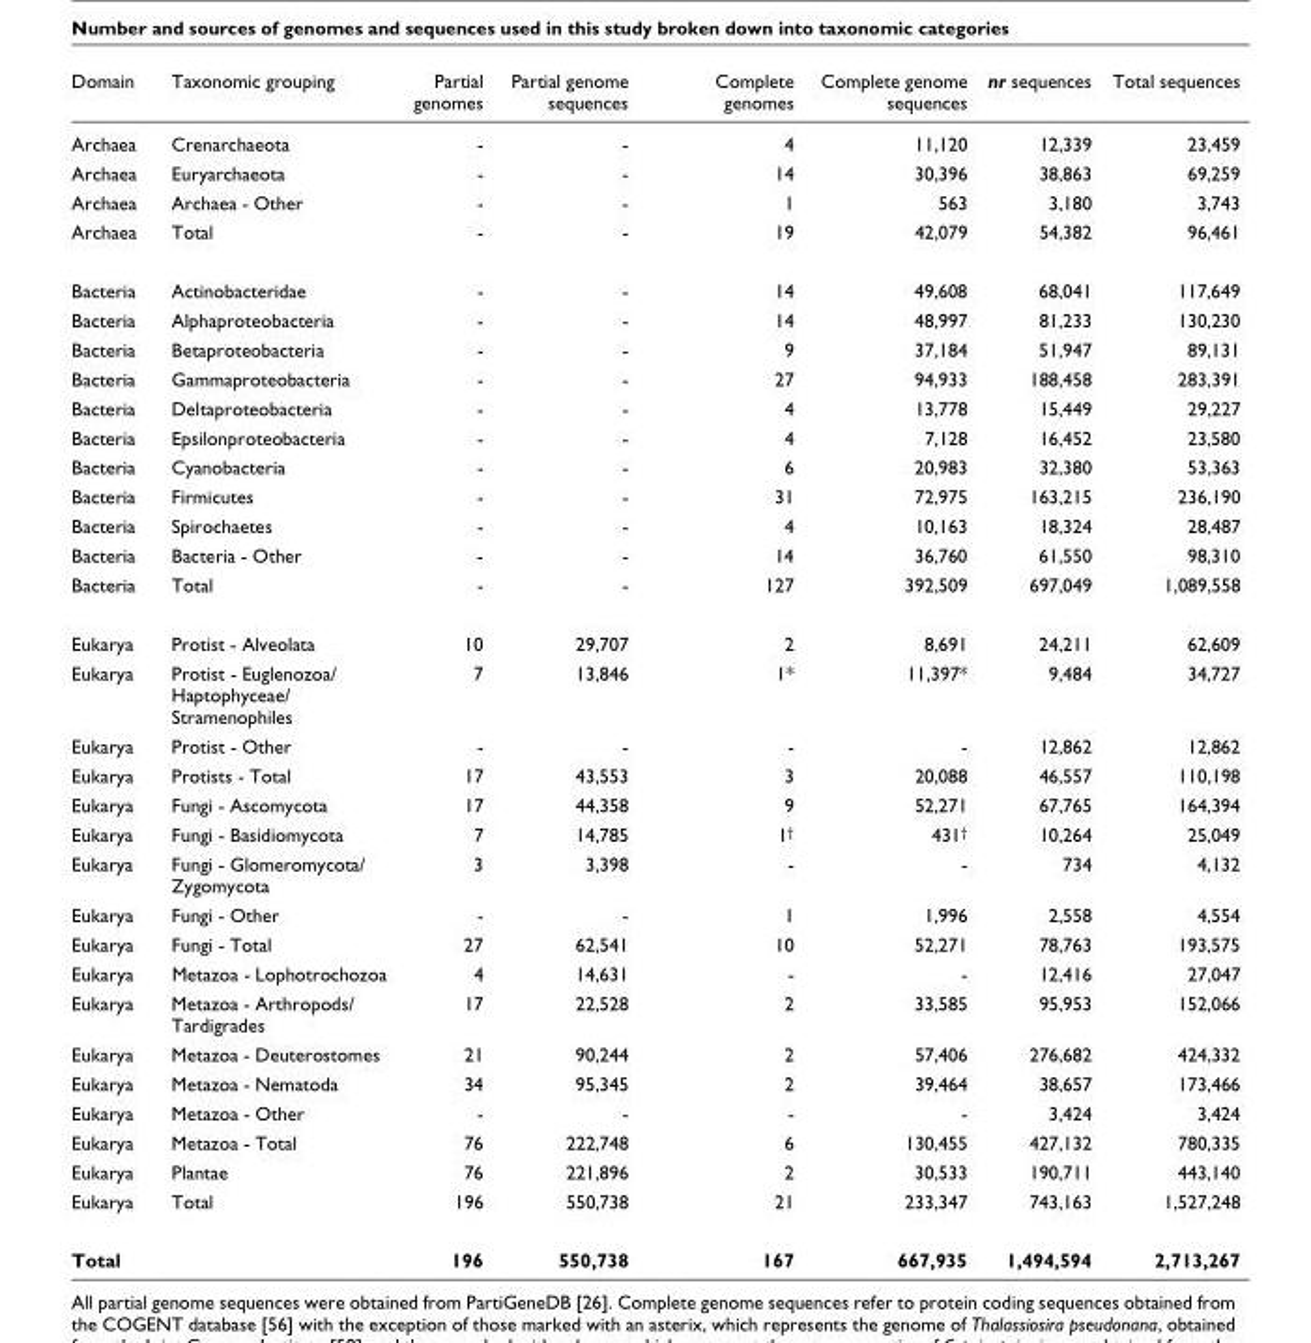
<table><thead><tr><td>Domain</td><td>Taxonomic grouping</td><td>Partial genomes</td><td>Partial genome sequences</td><td>Complete genomes</td><td>Complete genome sequences</td><td>nr sequences</td><td>Total sequences</td></tr></thead><tbody><tr><td>Archaea</td><td>Crenarchaeota</td><td>-</td><td>-</td><td>4</td><td>11,120</td><td>12,339</td><td>23,459</td></tr><tr><td>Archaea</td><td>Euryarchaeota</td><td>-</td><td>-</td><td>14</td><td>30,396</td><td>38,863</td><td>69,259</td></tr><tr><td>Archaea</td><td>Archaea - Other</td><td>-</td><td>-</td><td>1</td><td>563</td><td>3,180</td><td>3,743</td></tr><tr><td>Archaea</td><td>Total</td><td>-</td><td>-</td><td>19</td><td>42,079</td><td>54,382</td><td>96,461</td></tr><tr><td>Bacteria</td><td>Actinobacteridae</td><td>-</td><td>-</td><td>14</td><td>49,608</td><td>68,041</td><td>117,649</td></tr><tr><td>Bacteria</td><td>Alphaproteobacteria</td><td>-</td><td>-</td><td>14</td><td>48,997</td><td>81,233</td><td>130,230</td></tr><tr><td>Bacteria</td><td>Betaproteobacteria</td><td>-</td><td>-</td><td>9</td><td>37,184</td><td>51,947</td><td>89,131</td></tr><tr><td>Bacteria</td><td>Gammaproteobacteria</td><td>-</td><td>-</td><td>27</td><td>94,933</td><td>188,458</td><td>283,391</td></tr><tr><td>Bacteria</td><td>Deltaproteobacteria</td><td>-</td><td>-</td><td>4</td><td>13,778</td><td>15,449</td><td>29,227</td></tr><tr><td>Bacteria</td><td>Epsilonproteobacteria</td><td>-</td><td>-</td><td>4</td><td>7,128</td><td>16,452</td><td>23,580</td></tr><tr><td>Bacteria</td><td>Cyanobacteria</td><td>-</td><td>-</td><td>6</td><td>20,983</td><td>32,380</td><td>53,363</td></tr><tr><td>Bacteria</td><td>Firmicutes</td><td>-</td><td>-</td><td>31</td><td>72,975</td><td>163,215</td><td>236,190</td></tr><tr><td>Bacteria</td><td>Spirochaetes</td><td>-</td><td>-</td><td>4</td><td>10,163</td><td>18,324</td><td>28,487</td></tr><tr><td>Bacteria</td><td>Bacteria - Other</td><td>-</td><td>-</td><td>14</td><td>36,760</td><td>61,550</td><td>98,310</td></tr><tr><td>Bacteria</td><td>Total</td><td>-</td><td>-</td><td>127</td><td>392,509</td><td>697,049</td><td>1,089,558</td></tr><tr><td>Eukarya</td><td>Protist - Alveolata</td><td>10</td><td>29,707</td><td>2</td><td>8,691</td><td>24,211</td><td>62,609</td></tr><tr><td>Eukarya</td><td>Protist - Euglenozoa/ Haptophyceae/ Stramenophiles</td><td>7</td><td>13,846</td><td>1*</td><td>11,397*</td><td>9,484</td><td>34,727</td></tr><tr><td>Eukarya</td><td>Protist - Other</td><td>-</td><td>-</td><td>-</td><td>-</td><td>12,862</td><td>12,862</td></tr><tr><td>Eukarya</td><td>Protists - Total</td><td>17</td><td>43,553</td><td>3</td><td>20,088</td><td>46,557</td><td>110,198</td></tr><tr><td>Eukarya</td><td>Fungi - Ascomycota</td><td>17</td><td>44,358</td><td>9</td><td>52,271</td><td>67,765</td><td>164,394</td></tr><tr><td>Eukarya</td><td>Fungi - Basidiomycota</td><td>7</td><td>14,785</td><td>1<sup>†</sup></td><td>431<sup>†</sup></td><td>10,264</td><td>25,049</td></tr><tr><td>Eukarya</td><td>Fungi - Glomeromycota/ Zygomycota</td><td>3</td><td>3,398</td><td>-</td><td>-</td><td>734</td><td>4,132</td></tr><tr><td>Eukarya</td><td>Fungi - Other</td><td>-</td><td>-</td><td>1</td><td>1,996</td><td>2,558</td><td>4,554</td></tr><tr><td>Eukarya</td><td>Fungi - Total</td><td>27</td><td>62,541</td><td>10</td><td>52,271</td><td>78,763</td><td>193,575</td></tr><tr><td>Eukarya</td><td>Metazoa - Lophotrochozoa</td><td>4</td><td>14,631</td><td>-</td><td>-</td><td>12,416</td><td>27,047</td></tr><tr><td>Eukarya</td><td>Metazoa - Arthropods/ Tardigrades</td><td>17</td><td>22,528</td><td>2</td><td>33,585</td><td>95,953</td><td>152,066</td></tr><tr><td>Eukarya</td><td>Metazoa - Deuterostomes</td><td>21</td><td>90,244</td><td>2</td><td>57,406</td><td>276,682</td><td>424,332</td></tr><tr><td>Eukarya</td><td>Metazoa - Nematoda</td><td>34</td><td>95,345</td><td>2</td><td>39,464</td><td>38,657</td><td>173,466</td></tr><tr><td>Eukarya</td><td>Metazoa - Other</td><td>-</td><td>-</td><td>-</td><td>-</td><td>3,424</td><td>3,424</td></tr><tr><td>Eukarya</td><td>Metazoa - Total</td><td>76</td><td>222,748</td><td>6</td><td>130,455</td><td>427,132</td><td>780,335</td></tr><tr><td>Eukarya</td><td>Plantae</td><td>76</td><td>221,896</td><td>2</td><td>30,533</td><td>190,711</td><td>443,140</td></tr><tr><td>Eukarya</td><td>Total</td><td>196</td><td>550,738</td><td>21</td><td>233,347</td><td>743,163</td><td>1,527,248</td></tr><tr><td>Total</td><td></td><td>196</td><td>550,738</td><td>167</td><td>667,935</td><td>1,494,594</td><td>2,713,267</td></tr></tbody></table>